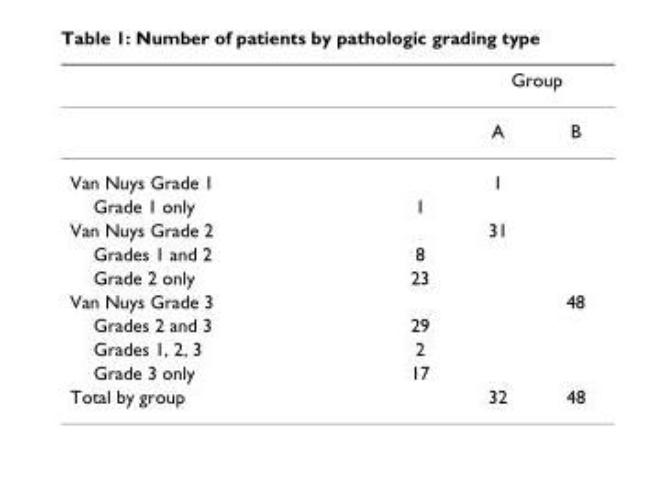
<table><thead><tr><td rowspan="2"></td><td rowspan="2"></td><td colspan="2">Group</td></tr><tr><td>A</td><td>B</td></tr></thead><tbody><tr><td>Van Nuys Grade 1</td><td></td><td>1</td><td></td></tr><tr><td>Grade 1 only</td><td>1</td><td></td><td></td></tr><tr><td>Van Nuys Grade 2</td><td></td><td>31</td><td></td></tr><tr><td>Grades 1 and 2</td><td>8</td><td></td><td></td></tr><tr><td>Grade 2 only</td><td>23</td><td></td><td></td></tr><tr><td>Van Nuys Grade 3</td><td></td><td></td><td>48</td></tr><tr><td>Grades 2 and 3</td><td>29</td><td></td><td></td></tr><tr><td>Grades 1, 2, 3</td><td>2</td><td></td><td></td></tr><tr><td>Grade 3 only</td><td>17</td><td></td><td></td></tr><tr><td>Total by group</td><td></td><td>32</td><td>48</td></tr></tbody></table>